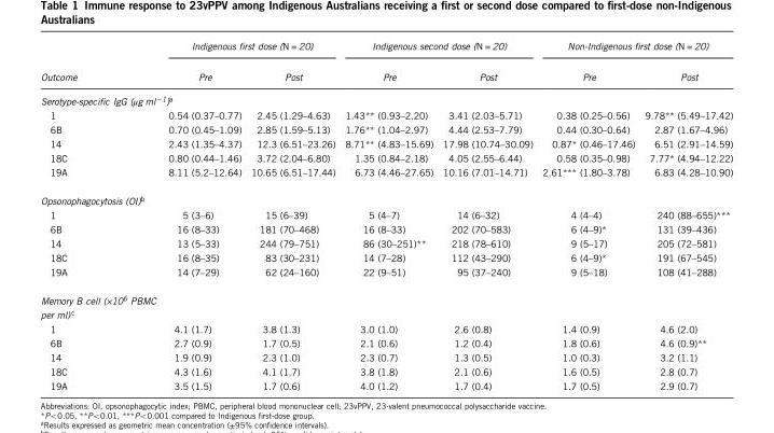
<table><thead><tr><td rowspan="2">Outcome</td><td colspan="2">Indigenous first dose (N = 20)</td><td colspan="2">Indigenous second dose (N = 20)</td><td colspan="2">Non-Indigenous first dose (N = 20)</td></tr><tr><td>Pre</td><td>Post</td><td>Pre</td><td>Post</td><td>Pre</td><td>Post</td></tr></thead><tbody><tr><td colspan="7">Serotype-specific IgG (μg ml<sup>− 1</sup>)<sup>a</sup></td></tr><tr><td>1</td><td>0.54 (0.37–0.77)</td><td>2.45 (1.29–4.63)</td><td>1.43** (0.93–2.20)</td><td>3.41 (2.03–5.71)</td><td>0.38 (0.25–0.56)</td><td>9.78** (5.49–17.42)</td></tr><tr><td>6B</td><td>0.70 (0.45–1.09)</td><td>2.85 (1.59–5.13)</td><td>1.76** (1.04–2.97)</td><td>4.44 (2.53–7.79)</td><td>0.44 (0.30–0.64)</td><td>2.87 (1.67–4.96)</td></tr><tr><td>14</td><td>2.43 (1.35–4.37)</td><td>12.3 (6.51–23.26)</td><td>8.71** (4.83–15.69)</td><td>17.98 (10.74–30.09)</td><td>0.87* (0.46–17.46)</td><td>6.51 (2.91–14.59)</td></tr><tr><td>18C</td><td>0.80 (0.44–1.46)</td><td>3.72 (2.04–6.80)</td><td>1.35 (0.84–2.18)</td><td>4.05 (2.55–6.44)</td><td>0.58 (0.35–0.98)</td><td>7.77* (4.94–12.22)</td></tr><tr><td>19A</td><td>8.11 (5.2–12.64)</td><td>10.65 (6.51–17.44)</td><td>6.73 (4.46–27.65)</td><td>10.16 (7.01–14.71)</td><td>2.61*** (1.80–3.78)</td><td>6.83 (4.28–10.90)</td></tr><tr><td colspan="7">Opsonophagocytosis (OI)<sup>b</sup></td></tr><tr><td>1</td><td>5 (3–6)</td><td>15 (6–39)</td><td>5 (4–7)</td><td>14 (6–32)</td><td>4 (4–4)</td><td>240 (88–655)***</td></tr><tr><td>6B</td><td>16 (8–33)</td><td>181 (70–468)</td><td>16 (8–33)</td><td>202 (70–583)</td><td>6 (4–9)*</td><td>131 (39–436)</td></tr><tr><td>14</td><td>13 (5–33)</td><td>244 (79–751)</td><td>86 (30–251)**</td><td>218 (78–610)</td><td>9 (5–17)</td><td>205 (72–581)</td></tr><tr><td>18C</td><td>16 (8–35)</td><td>83 (30–231)</td><td>14 (7–28)</td><td>112 (43–290)</td><td>6 (4–9)*</td><td>191 (67–545)</td></tr><tr><td>19A</td><td>14 (7–29)</td><td>62 (24–160)</td><td>22 (9–51)</td><td>95 (37–240)</td><td>9 (5–18)</td><td>108 (41–288)</td></tr><tr><td colspan="7">Memory B cell (×10<sup>6</sup> PBMC per ml) <sup>c</sup></td></tr><tr><td>1</td><td>4.1 (1.7)</td><td>3.8 (1.3)</td><td>3.0 (1.0)</td><td>2.6 (0.8)</td><td>1.4 (0.9)</td><td>4.6 (2.0)</td></tr><tr><td>6B</td><td>2.7 (0.9)</td><td>1.7 (0.5)</td><td>2.1 (0.6)</td><td>1.2 (0.4)</td><td>1.8 (0.6)</td><td>4.6 (0.9)**</td></tr><tr><td>14</td><td>1.9 (0.9)</td><td>2.3 (1.0)</td><td>2.3 (0.7)</td><td>1.3 (0.5)</td><td>1.0 (0.3)</td><td>3.2 (1.1)</td></tr><tr><td>18C</td><td>4.3 (1.6)</td><td>4.1 (1.7)</td><td>3.8 (1.8)</td><td>2.1 (0.6)</td><td>1.6 (0.5)</td><td>2.8 (0.7)</td></tr><tr><td>19A</td><td>3.5 (1.5)</td><td>1.7 (0.6)</td><td>4.0 (1.2)</td><td>1.7 (0.4)</td><td>1.7 (0.5)</td><td>2.9 (0.7)</td></tr></tbody></table>